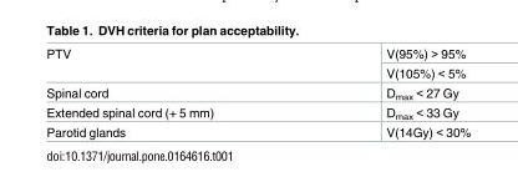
<table><tbody><tr><td rowspan="2">PTV</td><td>V(95%) &gt; 95%</td></tr><tr><td>V(105%) &lt; 5%</td></tr><tr><td>Spinal cord</td><td>D<sub>max</sub> &lt; 27 Gy</td></tr><tr><td>Extended spinal cord (+ 5 mm)</td><td>D<sub>max</sub> &lt; 33 Gy</td></tr><tr><td>Parotid glands</td><td>V(14Gy) &lt; 30%</td></tr></tbody></table>